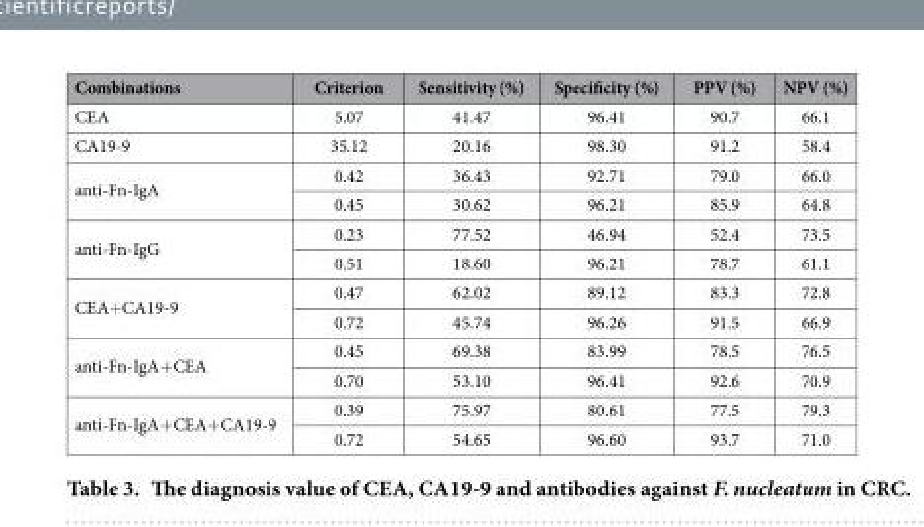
<table><thead><tr><td>Combinations</td><td>Criterion</td><td>Sensitivity (%)</td><td>Specificity (%)</td><td>PPV (%)</td><td>NPV (%)</td></tr></thead><tbody><tr><td>CEA</td><td>5.07</td><td>41.47</td><td>96.41</td><td>90.7</td><td>66.1</td></tr><tr><td>CA19-9</td><td>35.12</td><td>20.16</td><td>98.30</td><td>91.2</td><td>58.4</td></tr><tr><td rowspan="2">anti-Fn-IgA</td><td>0.42</td><td>36.43</td><td>92.71</td><td>79.0</td><td>66.0</td></tr><tr><td>0.45</td><td>30.62</td><td>96.21</td><td>85.9</td><td>64.8</td></tr><tr><td rowspan="2">anti-Fn-IgG</td><td>0.23</td><td>77.52</td><td>46.94</td><td>52.4</td><td>73.5</td></tr><tr><td>0.51</td><td>18.60</td><td>96.21</td><td>78.7</td><td>61.1</td></tr><tr><td rowspan="2">CEA+CA19-9</td><td>0.47</td><td>62.02</td><td>89.12</td><td>83.3</td><td>72.8</td></tr><tr><td>0.72</td><td>45.74</td><td>96.26</td><td>91.5</td><td>66.9</td></tr><tr><td rowspan="2">anti-Fn-IgA+CEA</td><td>0.45</td><td>69.38</td><td>83.99</td><td>78.5</td><td>76.5</td></tr><tr><td>0.70</td><td>53.10</td><td>96.41</td><td>92.6</td><td>70.9</td></tr><tr><td rowspan="2">anti-Fn-IgA+CEA+CA19-9</td><td>0.39</td><td>75.97</td><td>80.61</td><td>77.5</td><td>79.3</td></tr><tr><td>0.72</td><td>54.65</td><td>96.60</td><td>93.7</td><td>71.0</td></tr></tbody></table>